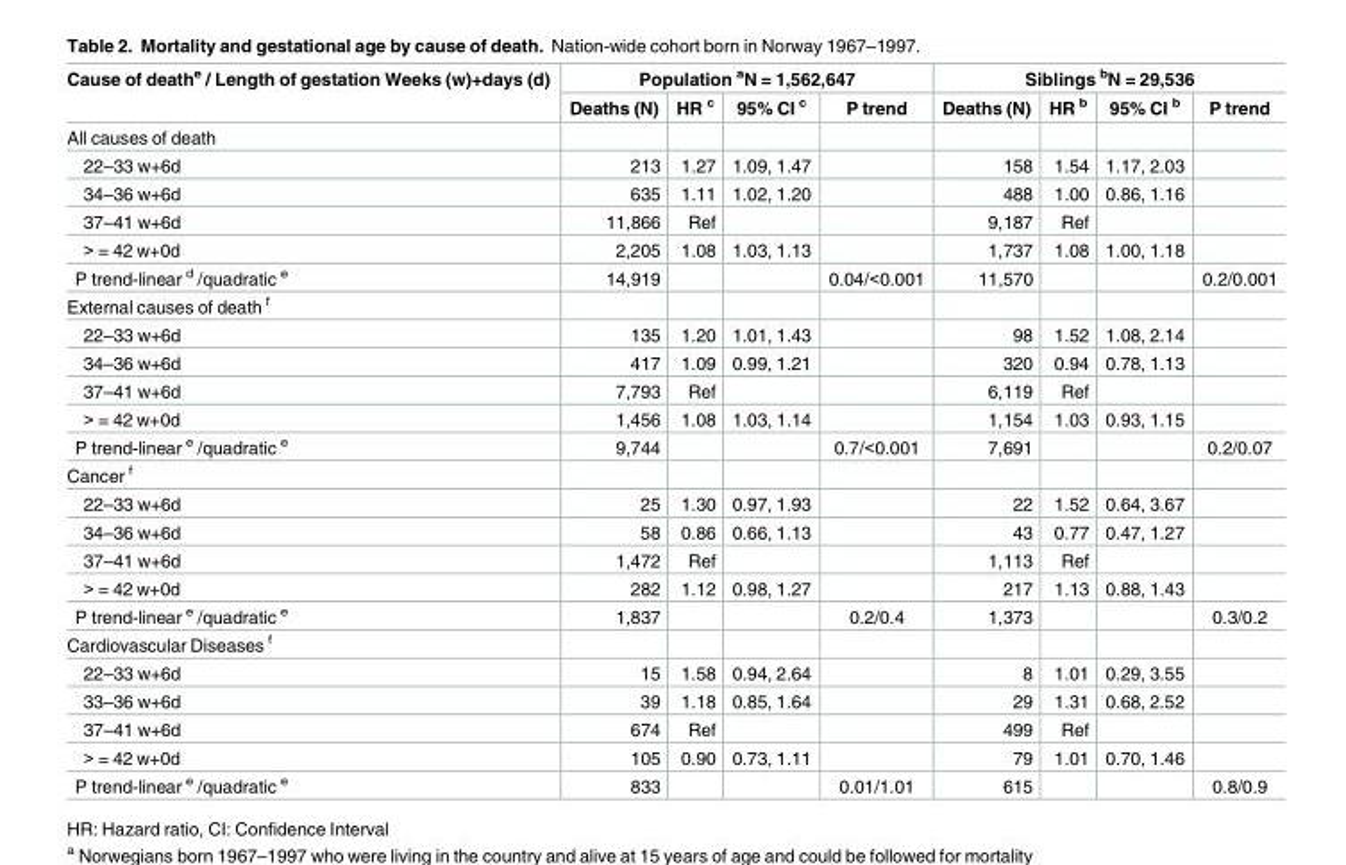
<table><thead><tr><td rowspan="2">Cause of death<sup>e</sup> / Length of gestation Weeks (w)+days (d)</td><td colspan="4">Population <sup>a</sup>N = 1,562,647</td><td colspan="4">Siblings <sup>b</sup>N = 29,536</td></tr><tr><td>Deaths (N)</td><td>HR <sup>c</sup></td><td>95% CI <sup>c</sup></td><td>P trend</td><td>Deaths (N)</td><td>HR <sup>b</sup></td><td>95% CI <sup>b</sup></td><td>P trend</td></tr></thead><tbody><tr><td colspan="9">All causes of death</td></tr><tr><td>22–33 w+6d</td><td>213</td><td>1.27</td><td>1.09, 1.47</td><td></td><td>158</td><td>1.54</td><td>1.17, 2.03</td><td></td></tr><tr><td>34–36 w+6d</td><td>635</td><td>1.11</td><td>1.02, 1.20</td><td></td><td>488</td><td>1.00</td><td>0.86, 1.16</td><td></td></tr><tr><td>37–41 w+6d</td><td>11,866</td><td>Ref</td><td></td><td></td><td>9,187</td><td>Ref</td><td></td><td></td></tr><tr><td>&gt; = 42 w+0d</td><td>2,205</td><td>1.08</td><td>1.03, 1.13</td><td></td><td>1,737</td><td>1.08</td><td>1.00, 1.18</td><td></td></tr><tr><td>P trend-linear <sup>d</sup> /quadratic <sup>e</sup></td><td>14,919</td><td></td><td></td><td>0.04/&lt;0.001</td><td>11,570</td><td></td><td></td><td>0.2/0.001</td></tr><tr><td colspan="9">External causes of death <sup>f</sup></td></tr><tr><td>22–33 w+6d</td><td>135</td><td>1.20</td><td>1.01, 1.43</td><td></td><td>98</td><td>1.52</td><td>1.08, 2.14</td><td></td></tr><tr><td>34–36 w+6d</td><td>417</td><td>1.09</td><td>0.99, 1.21</td><td></td><td>320</td><td>0.94</td><td>0.78, 1.13</td><td></td></tr><tr><td>37–41 w+6d</td><td>7,793</td><td>Ref</td><td></td><td></td><td>6,119</td><td>Ref</td><td></td><td></td></tr><tr><td>&gt; = 42 w+0d</td><td>1,456</td><td>1.08</td><td>1.03, 1.14</td><td></td><td>1,154</td><td>1.03</td><td>0.93, 1.15</td><td></td></tr><tr><td>P trend-linear <sup>e</sup> /quadratic <sup>e</sup></td><td>9,744</td><td></td><td></td><td>0.7/&lt;0.001</td><td>7,691</td><td></td><td></td><td>0.2/0.07</td></tr><tr><td colspan="9">Cancer <sup>f</sup></td></tr><tr><td>22–33 w+6d</td><td>25</td><td>1.30</td><td>0.97, 1.93</td><td></td><td>22</td><td>1.52</td><td>0.64, 3.67</td><td></td></tr><tr><td>34–36 w+6d</td><td>58</td><td>0.86</td><td>0.66, 1.13</td><td></td><td>43</td><td>0.77</td><td>0.47, 1.27</td><td></td></tr><tr><td>37–41 w+6d</td><td>1,472</td><td>Ref</td><td></td><td></td><td>1,113</td><td>Ref</td><td></td><td></td></tr><tr><td>&gt; = 42 w+0d</td><td>282</td><td>1.12</td><td>0.98, 1.27</td><td></td><td>217</td><td>1.13</td><td>0.88, 1.43</td><td></td></tr><tr><td>P trend-linear <sup>e</sup> /quadratic <sup>e</sup></td><td>1,837</td><td></td><td></td><td>0.2/0.4</td><td>1,373</td><td></td><td></td><td>0.3/0.2</td></tr><tr><td colspan="9">Cardiovascular Diseases <sup>f</sup></td></tr><tr><td>22–33 w+6d</td><td>15</td><td>1.58</td><td>0.94, 2.64</td><td></td><td>8</td><td>1.01</td><td>0.29, 3.55</td><td></td></tr><tr><td>33–36 w+6d</td><td>39</td><td>1.18</td><td>0.85, 1.64</td><td></td><td>29</td><td>1.31</td><td>0.68, 2.52</td><td></td></tr><tr><td>37–41 w+6d</td><td>674</td><td>Ref</td><td></td><td></td><td>499</td><td>Ref</td><td></td><td></td></tr><tr><td>&gt; = 42 w+0d</td><td>105</td><td>0.90</td><td>0.73, 1.11</td><td></td><td>79</td><td>1.01</td><td>0.70, 1.46</td><td></td></tr><tr><td>P trend-linear <sup>e</sup> /quadratic <sup>e</sup></td><td>833</td><td></td><td></td><td>0.01/1.01</td><td>615</td><td></td><td></td><td>0.8/0.9</td></tr></tbody></table>